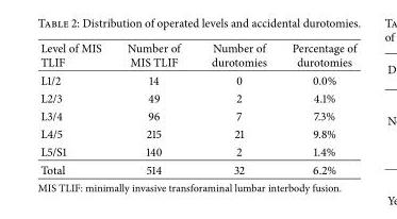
<table><thead><tr><td>Level of MIS TLIF</td><td>Number of MIS TLIF</td><td>Number of durotomies</td><td>Percentage of durotomies</td></tr></thead><tbody><tr><td>L1/2</td><td>14</td><td>0</td><td>0.0%</td></tr><tr><td>L2/3</td><td>49</td><td>2</td><td>4.1%</td></tr><tr><td>L3/4</td><td>96</td><td>7</td><td>7.3%</td></tr><tr><td>L4/5</td><td>215</td><td>21</td><td>9.8%</td></tr><tr><td>L5/S1</td><td>140</td><td>2</td><td>1.4%</td></tr><tr><td>Total</td><td>514</td><td>32</td><td>6.2%</td></tr></tbody></table>